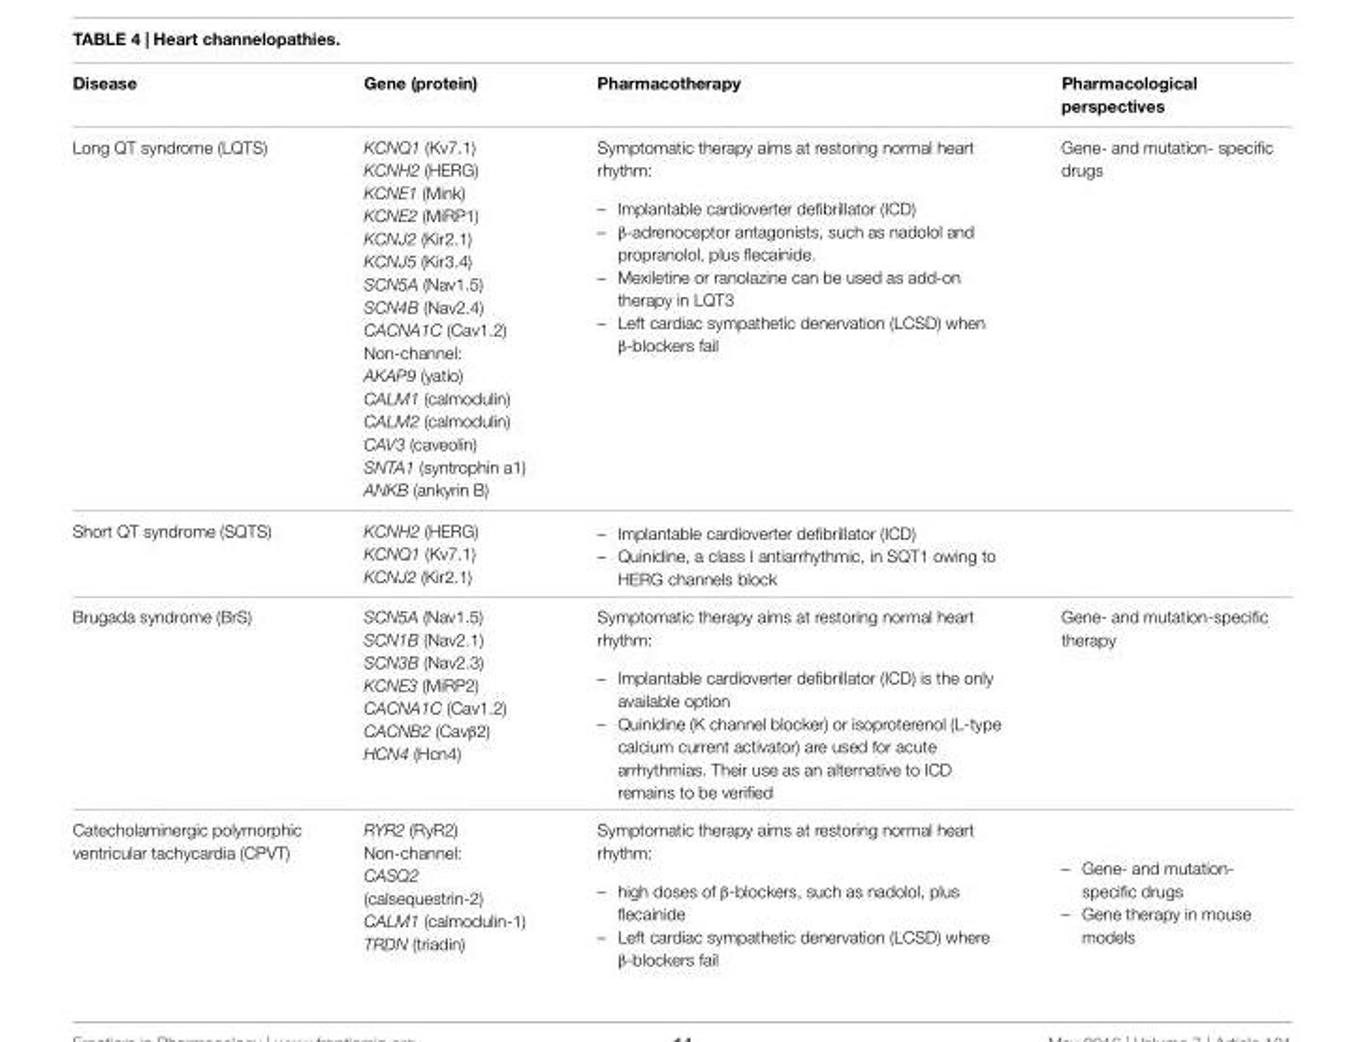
<table><thead><tr><td>Disease</td><td>Gene (protein)</td><td>Pharmacotherapy</td><td>Pharmacological perspectives</td></tr></thead><tbody><tr><td>Long QT syndrome (LQTS)</td><td>KCNQ1 (Kv7.1) KCNH2 (HERG) KCNE1 (Mink) KCNE2 (MiRP1) KCNJ2 (Kir2.1) KCNJ5 (Kir3.4) SCN5A (Nav1.5) SCN4B (Nav2.4) CACNA1C (Cav1.2) Non-channel: AKAP9 (yatio) CALM1 (calmodulin) CALM2 (calmodulin) CAV3 (caveolin) SNTA1 (syntrophin a1) ANKB (ankyrin B)</td><td>Symptomatic therapy aims at restoring normal heart rhythm: – Implantable cardioverter defibrillator (ICD) – β-adrenoceptor antagonists, such as nadolol and propranolol, plus flecainide. – Mexiletine or ranolazine can be used as add-on therapy in LQT3 – Left cardiac sympathetic denervation (LCSD) when β-blockers fail</td><td>Gene- and mutation- specific drugs</td></tr><tr><td>Short QT syndrome (SQTS)</td><td>KCNH2 (HERG) KCNQ1 (Kv7.1) KCNJ2 (Kir2.1)</td><td>– Implantable cardioverter defibrillator (ICD) – Quinidine, a class I antiarrhythmic, in SQT1 owing to HERG channels block</td><td></td></tr><tr><td>Brugada syndrome (BrS)</td><td>SCN5A (Nav1.5) SCN1B (Nav2.1) SCN3B (Nav2.3) KCNE3 (MiRP2) CACNA1C (Cav1.2) CACNB2 (Cavβ2) HCN4 (Hcn4)</td><td>Symptomatic therapy aims at restoring normal heart rhythm: – Implantable cardioverter defibrillator (ICD) is the only available option – Quinidine (K channel blocker) or isoproterenol (L-type calcium current activator) are used for acute arrhythmias. Their use as an alternative to ICD remains to be verified</td><td>Gene- and mutation-specific therapy</td></tr><tr><td>Catecholaminergic polymorphic ventricular tachycardia (CPVT)</td><td>RYR2 (RyR2) Non-channel: CASQ2 (calsequestrin-2) CALM1 (calmodulin-1) TRDN (triadin)</td><td>Symptomatic therapy aims at restoring normal heart rhythm: – high doses of β-blockers, such as nadolol, plus flecainide – Left cardiac sympathetic denervation (LCSD) where β-blockers fail</td><td>– Gene- and mutation- specific drugs – Gene therapy in mouse models</td></tr></tbody></table>